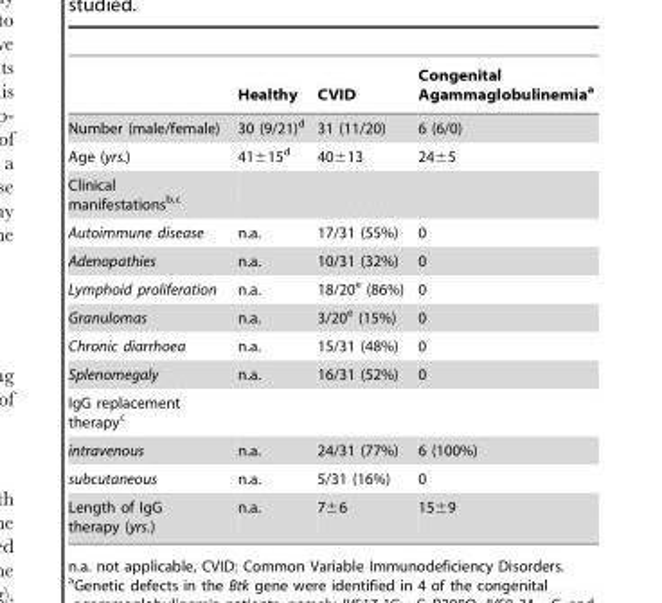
<table><thead><tr><td></td><td>Healthy</td><td>CVID</td><td>Congenital Agammaglobulinemia<sup>a</sup></td></tr></thead><tbody><tr><td>Number (male/female)</td><td>30 (9/21)<sup>d</sup></td><td>31 (11/20)</td><td>6 (6/0)</td></tr><tr><td>Age (yrs.)</td><td>41±15<sup>d</sup></td><td>40±13</td><td>24±5</td></tr><tr><td colspan="4">Clinical manifestations<sup>b,</sup>c</td></tr><tr><td>Autoimmune disease</td><td>n.a.</td><td>17/31 (55%)</td><td>0</td></tr><tr><td>Adenopathies</td><td>n.a.</td><td>10/31 (32%)</td><td>0</td></tr><tr><td>Lymphoid proliferation</td><td>n.a.</td><td>18/20<sup>e</sup> (86%)</td><td>0</td></tr><tr><td>Granulomas</td><td>n.a.</td><td>3/20<sup>e</sup> (15%)</td><td>0</td></tr><tr><td>Chronic diarrhoea</td><td>n.a.</td><td>15/31 (48%)</td><td>0</td></tr><tr><td>Splenomegaly</td><td>n.a.</td><td>16/31 (52%)</td><td>0</td></tr><tr><td colspan="4">IgG replacement therapy<sup>c</sup></td></tr><tr><td>intravenous</td><td>n.a.</td><td>24/31 (77%)</td><td>6 (100%)</td></tr><tr><td>subcutaneous</td><td>n.a.</td><td>5/31 (16%)</td><td>0</td></tr><tr><td>Length of IgG therapy (yrs.)</td><td>n.a.</td><td>7±6</td><td>15±9</td></tr></tbody></table>